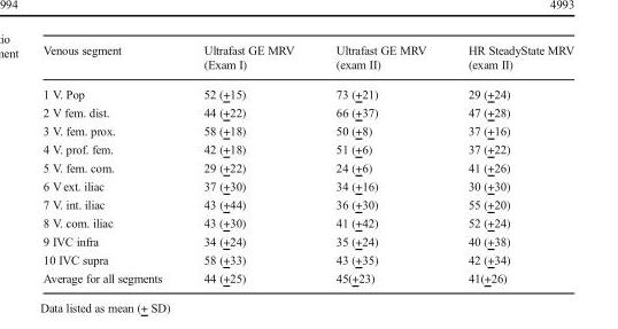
<table><thead><tr><td>Venous segment</td><td>Ultrafast GE MRV (Exam I)</td><td>Ultrafast GE MRV (exam II)</td><td>HR SteadyState MRV (exam II)</td></tr></thead><tbody><tr><td>1 V. Pop</td><td>52 (+15)</td><td>73 (+21)</td><td>29 (+24)</td></tr><tr><td>2 V fem. dist.</td><td>44 (+22)</td><td>66 (+37)</td><td>47 (+28)</td></tr><tr><td>3 V. fem. prox.</td><td>58 (+18)</td><td>50 (+8)</td><td>37 (+16)</td></tr><tr><td>4 V. prof. fem.</td><td>42 (+18)</td><td>51 (+6)</td><td>37 (+22)</td></tr><tr><td>5 V. fem. com.</td><td>29 (+22)</td><td>24 (+6)</td><td>41 (+26)</td></tr><tr><td>6 V ext. iliac</td><td>37 (+30)</td><td>34 (+16)</td><td>30 (+30)</td></tr><tr><td>7 V. int. iliac</td><td>43 (+44)</td><td>36 (+30)</td><td>55 (+20)</td></tr><tr><td>8 V. com. iliac</td><td>43 (+30)</td><td>41 (+42)</td><td>52 (+24)</td></tr><tr><td>9 IVC infra</td><td>34 (+24)</td><td>35 (+24)</td><td>40 (+38)</td></tr><tr><td>10 IVC supra</td><td>58 (+33)</td><td>43 (+35)</td><td>42 (+34)</td></tr><tr><td>Average for all segments</td><td>44 (+25)</td><td>45(+23)</td><td>41(+26)</td></tr></tbody></table>